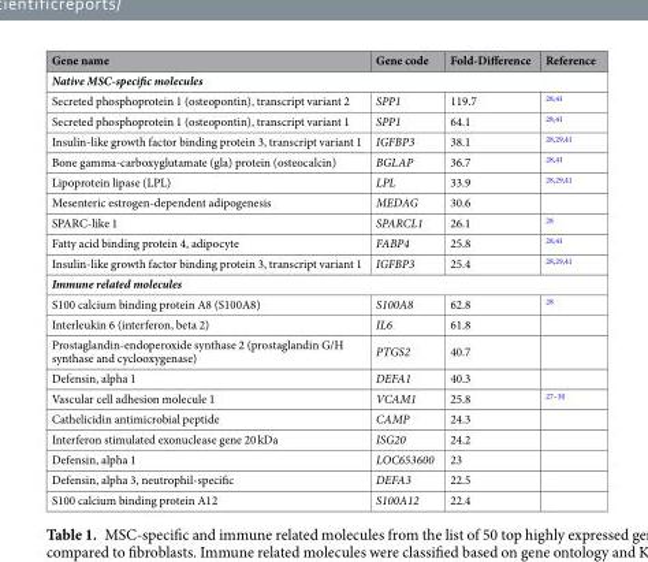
<table><thead><tr><td>Gene name</td><td>Gene code</td><td>Fold-Difference</td><td>Reference</td></tr></thead><tbody><tr><td colspan="4">Native MSC-specific molecules</td></tr><tr><td>Secreted phosphoprotein 1 (osteopontin), transcript variant 2</td><td>SPP1</td><td>119.7</td><td><sup>28,41</sup></td></tr><tr><td>Secreted phosphoprotein 1 (osteopontin), transcript variant 1</td><td>SPP1</td><td>64.1</td><td><sup>28,41</sup></td></tr><tr><td>Insulin-like growth factor binding protein 3, transcript variant 1</td><td>IGFBP3</td><td>38.1</td><td><sup>28,29,41</sup></td></tr><tr><td>Bone gamma-carboxyglutamate (gla) protein (osteocalcin)</td><td>BGLAP</td><td>36.7</td><td><sup>28,41</sup></td></tr><tr><td>Lipoprotein lipase (LPL)</td><td>LPL</td><td>33.9</td><td><sup>28,29,41</sup></td></tr><tr><td>Mesenteric estrogen-dependent adipogenesis</td><td>MEDAG</td><td>30.6</td><td></td></tr><tr><td>SPARC-like 1</td><td>SPARCL1</td><td>26.1</td><td><sup>28</sup></td></tr><tr><td>Fatty acid binding protein 4, adipocyte</td><td>FABP4</td><td>25.8</td><td><sup>28,41</sup></td></tr><tr><td>Insulin-like growth factor binding protein 3, transcript variant 1</td><td>IGFBP3</td><td>25.4</td><td><sup>28,29,41</sup></td></tr><tr><td colspan="4">Immune related molecules</td></tr><tr><td>S100 calcium binding protein A8 (S100A8)</td><td>S100A8</td><td>62.8</td><td><sup>28</sup></td></tr><tr><td>Interleukin 6 (interferon, beta 2)</td><td>IL6</td><td>61.8</td><td></td></tr><tr><td>Prostaglandin-endoperoxide synthase 2 (prostaglandin G/H synthase and cyclooxygenase)</td><td>PTGS2</td><td>40.7</td><td></td></tr><tr><td>Defensin, alpha 1</td><td>DEFA1</td><td>40.3</td><td></td></tr><tr><td>Vascular cell adhesion molecule 1</td><td>VCAM1</td><td>25.8</td><td><sup>27–30</sup></td></tr><tr><td>Cathelicidin antimicrobial peptide</td><td>CAMP</td><td>24.3</td><td></td></tr><tr><td>Interferon stimulated exonuclease gene 20 kDa</td><td>ISG20</td><td>24.2</td><td></td></tr><tr><td>Defensin, alpha 1</td><td>LOC653600</td><td>23</td><td></td></tr><tr><td>Defensin, alpha 3, neutrophil-specific</td><td>DEFA3</td><td>22.5</td><td></td></tr><tr><td>S100 calcium binding protein A12</td><td>S100A12</td><td>22.4</td><td></td></tr></tbody></table>